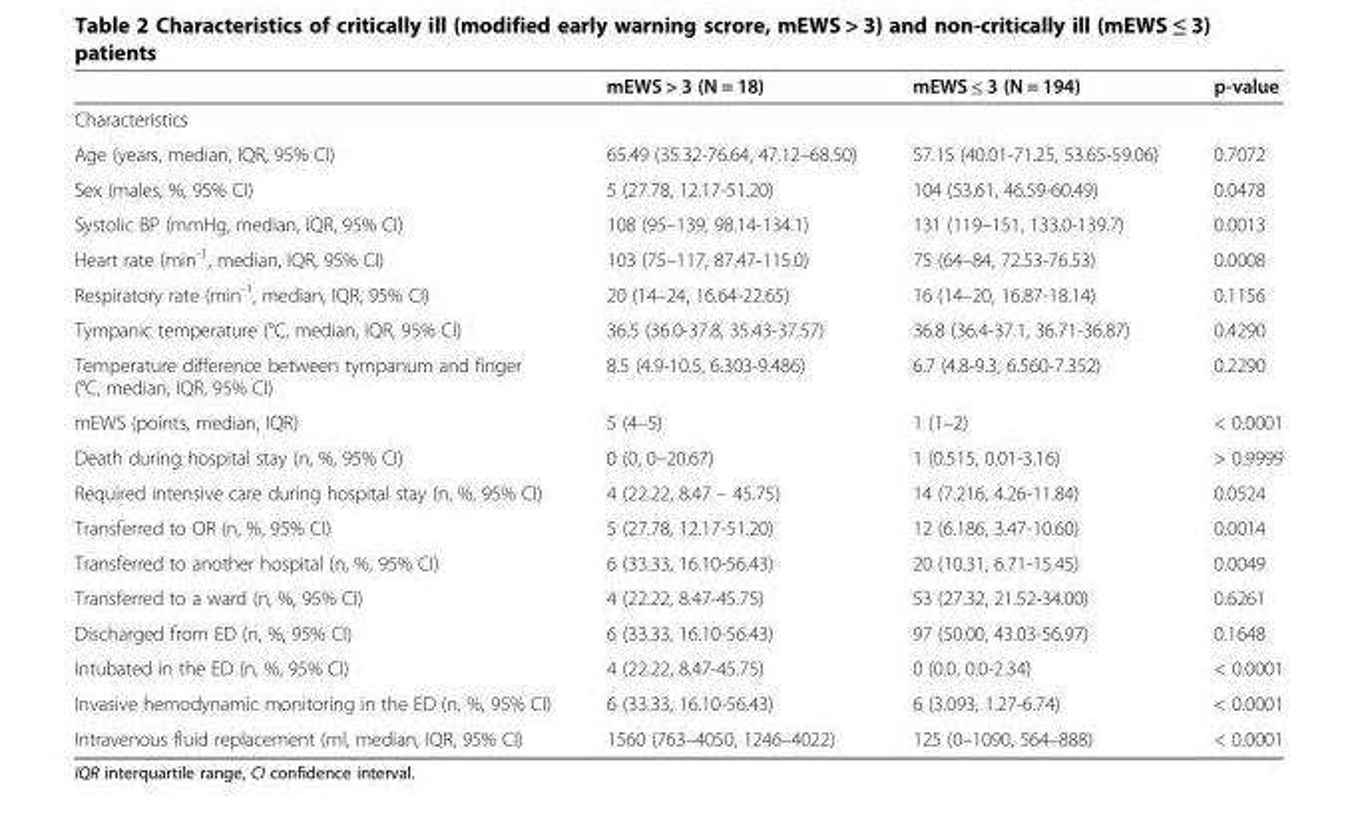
<table><thead><tr><td></td><td>mEWS &gt; 3 (N = 18)</td><td>mEWS ≤ 3 (N = 194)</td><td>p-value</td></tr></thead><tbody><tr><td colspan="4">Characteristics</td></tr><tr><td>Age (years, median, IQR, 95% CI)</td><td>65.49 (35.32-76.64, 47.12–68.50)</td><td>57.15 (40.01-71.25, 53.65-59.06)</td><td>0.7072</td></tr><tr><td>Sex (males, %, 95% CI)</td><td>5 (27.78, 12.17-51.20)</td><td>104 (53.61, 46.59-60.49)</td><td>0.0478</td></tr><tr><td>Systolic BP (mmHg, median, IQR, 95% CI)</td><td>108 (95–139, 98.14-134.1)</td><td>131 (119–151, 133.0-139.7)</td><td>0.0013</td></tr><tr><td>Heart rate (min<sup>-1</sup>, median, IQR, 95% CI)</td><td>103 (75–117, 87.47-115.0)</td><td>75 (64–84, 72.53-76.53)</td><td>0.0008</td></tr><tr><td>Respiratory rate (min<sup>-1</sup>, median, IQR, 95% CI)</td><td>20 (14–24, 16.64-22.65)</td><td>16 (14–20, 16.87-18.14)</td><td>0.1156</td></tr><tr><td>Tympanic temperature (°C, median, IQR, 95% CI)</td><td>36.5 (36.0-37.8, 35.43-37.57)</td><td>36.8 (36.4-37.1, 36.71-36.87)</td><td>0.4290</td></tr><tr><td>Temperature difference between tympanum and finger (°C, median, IQR, 95% CI)</td><td>8.5 (4.9-10.5, 6.303-9.486)</td><td>6.7 (4.8-9.3, 6.560-7.352)</td><td>0.2290</td></tr><tr><td>mEWS (points, median, IQR)</td><td>5 (4–5)</td><td>1 (1–2)</td><td>&lt; 0.0001</td></tr><tr><td>Death during hospital stay (n, %, 95% CI)</td><td>0 (0, 0–20.67)</td><td>1 (0.515, 0.01-3.16)</td><td>&gt; 0.9999</td></tr><tr><td>Required intensive care during hospital stay (n, %, 95% CI)</td><td>4 (22.22, 8.47 – 45.75)</td><td>14 (7.216, 4.26-11.84)</td><td>0.0524</td></tr><tr><td>Transferred to OR (n, %, 95% CI)</td><td>5 (27.78, 12.17-51.20)</td><td>12 (6.186, 3.47-10.60)</td><td>0.0014</td></tr><tr><td>Transferred to another hospital (n, %, 95% CI)</td><td>6 (33.33, 16.10-56.43)</td><td>20 (10.31, 6.71-15.45)</td><td>0.0049</td></tr><tr><td>Transferred to a ward (n, %, 95% CI)</td><td>4 (22.22, 8.47-45.75)</td><td>53 (27.32, 21.52-34.00)</td><td>0.6261</td></tr><tr><td>Discharged from ED (n, %, 95% CI)</td><td>6 (33.33, 16.10-56.43)</td><td>97 (50.00, 43.03-56.97)</td><td>0.1648</td></tr><tr><td>Intubated in the ED (n, %, 95% CI)</td><td>4 (22.22, 8.47-45.75)</td><td>0 (0.0, 0.0-2.34)</td><td>&lt; 0.0001</td></tr><tr><td>Invasive hemodynamic monitoring in the ED (n, %, 95% CI)</td><td>6 (33.33, 16.10-56.43)</td><td>6 (3.093, 1.27-6.74)</td><td>&lt; 0.0001</td></tr><tr><td>Intravenous fluid replacement (ml, median, IQR, 95% CI)</td><td>1560 (763–4050, 1246–4022)</td><td>125 (0–1090, 564–888)</td><td>&lt; 0.0001</td></tr></tbody></table>